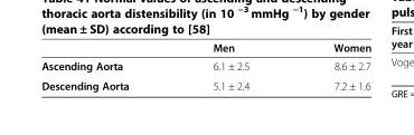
<table><thead><tr><td></td><td>Men</td><td>Women</td></tr></thead><tbody><tr><td>Ascending Aorta</td><td>6.1 ± 2.5</td><td>8.6 ± 2.7</td></tr><tr><td>Descending Aorta</td><td>5.1 ± 2.4</td><td>7.2 ± 1.6</td></tr></tbody></table>